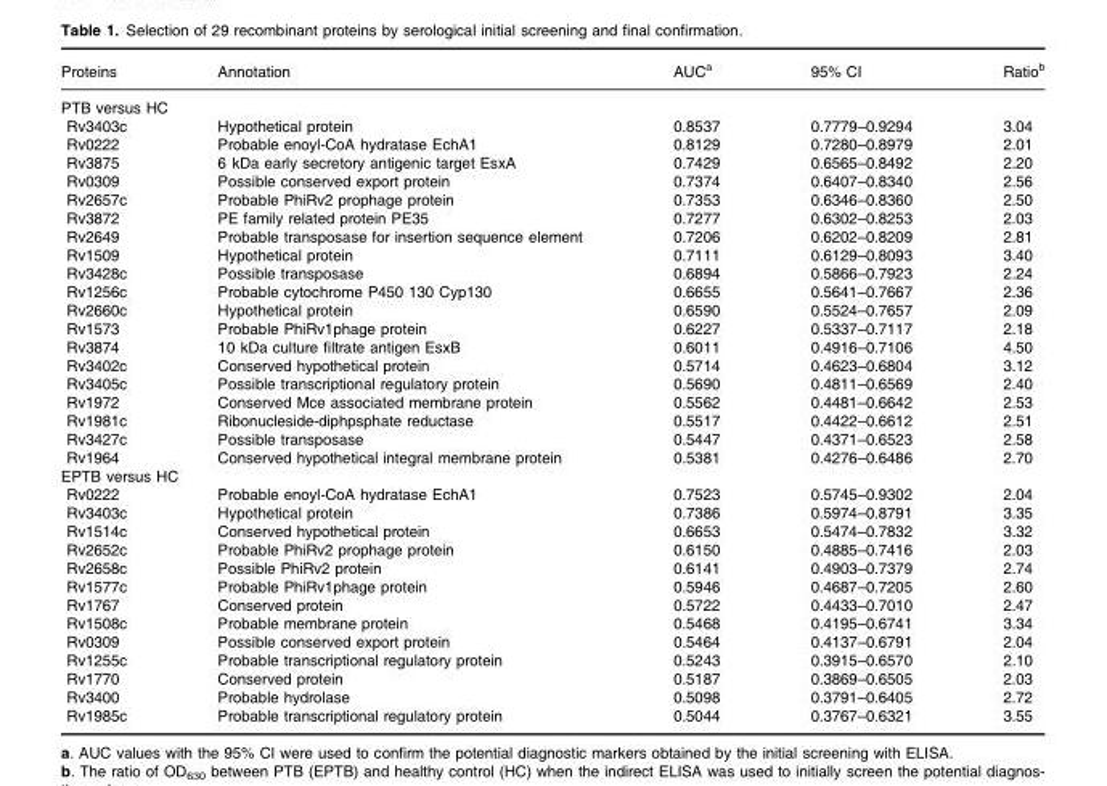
<table><thead><tr><td>Proteins</td><td>Annotation</td><td>AUC<sup>a</sup></td><td>95% CI</td><td>Ratio<sup>b</sup></td></tr></thead><tbody><tr><td colspan="5">PTB versus HC</td></tr><tr><td>Rv3403c</td><td>Hypothetical protein</td><td>0.8537</td><td>0.7779–0.9294</td><td>3.04</td></tr><tr><td>Rv0222</td><td>Probable enoyl-CoA hydratase EchA1</td><td>0.8129</td><td>0.7280–0.8979</td><td>2.01</td></tr><tr><td>Rv3875</td><td>6 kDa early secretory antigenic target EsxA</td><td>0.7429</td><td>0.6565–0.8492</td><td>2.20</td></tr><tr><td>Rv0309</td><td>Possible conserved export protein</td><td>0.7374</td><td>0.6407–0.8340</td><td>2.56</td></tr><tr><td>Rv2657c</td><td>Probable PhiRv2 prophage protein</td><td>0.7353</td><td>0.6346–0.8360</td><td>2.50</td></tr><tr><td>Rv3872</td><td>PE family related protein PE35</td><td>0.7277</td><td>0.6302–0.8253</td><td>2.03</td></tr><tr><td>Rv2649</td><td>Probable transposase for insertion sequence element</td><td>0.7206</td><td>0.6202–0.8209</td><td>2.81</td></tr><tr><td>Rv1509</td><td>Hypothetical protein</td><td>0.7111</td><td>0.6129–0.8093</td><td>3.40</td></tr><tr><td>Rv3428c</td><td>Possible transposase</td><td>0.6894</td><td>0.5866–0.7923</td><td>2.24</td></tr><tr><td>Rv1256c</td><td>Probable cytochrome P450 130 Cyp130</td><td>0.6655</td><td>0.5641–0.7667</td><td>2.36</td></tr><tr><td>Rv2660c</td><td>Hypothetical protein</td><td>0.6590</td><td>0.5524–0.7657</td><td>2.09</td></tr><tr><td>Rv1573</td><td>Probable PhiRv1phage protein</td><td>0.6227</td><td>0.5337–0.7117</td><td>2.18</td></tr><tr><td>Rv3874</td><td>10 kDa culture filtrate antigen EsxB</td><td>0.6011</td><td>0.4916–0.7106</td><td>4.50</td></tr><tr><td>Rv3402c</td><td>Conserved hypothetical protein</td><td>0.5714</td><td>0.4623–0.6804</td><td>3.12</td></tr><tr><td>Rv3405c</td><td>Possible transcriptional regulatory protein</td><td>0.5690</td><td>0.4811–0.6569</td><td>2.40</td></tr><tr><td>Rv1972</td><td>Conserved Mce associated membrane protein</td><td>0.5562</td><td>0.4481–0.6642</td><td>2.53</td></tr><tr><td>Rv1981c</td><td>Ribonucleside-diphpsphate reductase</td><td>0.5517</td><td>0.4422–0.6612</td><td>2.51</td></tr><tr><td>Rv3427c</td><td>Possible transposase</td><td>0.5447</td><td>0.4371–0.6523</td><td>2.58</td></tr><tr><td>Rv1964</td><td>Conserved hypothetical integral membrane protein</td><td>0.5381</td><td>0.4276–0.6486</td><td>2.70</td></tr><tr><td colspan="5">EPTB versus HC</td></tr><tr><td>Rv0222</td><td>Probable enoyl-CoA hydratase EchA1</td><td>0.7523</td><td>0.5745–0.9302</td><td>2.04</td></tr><tr><td>Rv3403c</td><td>Hypothetical protein</td><td>0.7386</td><td>0.5974–0.8791</td><td>3.35</td></tr><tr><td>Rv1514c</td><td>Conserved hypothetical protein</td><td>0.6653</td><td>0.5474–0.7832</td><td>3.32</td></tr><tr><td>Rv2652c</td><td>Probable PhiRv2 prophage protein</td><td>0.6150</td><td>0.4885–0.7416</td><td>2.03</td></tr><tr><td>Rv2658c</td><td>Possible PhiRv2 protein</td><td>0.6141</td><td>0.4903–0.7379</td><td>2.74</td></tr><tr><td>Rv1577c</td><td>Probable PhiRv1phage protein</td><td>0.5946</td><td>0.4687–0.7205</td><td>2.60</td></tr><tr><td>Rv1767</td><td>Conserved protein</td><td>0.5722</td><td>0.4433–0.7010</td><td>2.47</td></tr><tr><td>Rv1508c</td><td>Probable membrane protein</td><td>0.5468</td><td>0.4195–0.6741</td><td>3.34</td></tr><tr><td>Rv0309</td><td>Possible conserved export protein</td><td>0.5464</td><td>0.4137–0.6791</td><td>2.04</td></tr><tr><td>Rv1255c</td><td>Probable transcriptional regulatory protein</td><td>0.5243</td><td>0.3915–0.6570</td><td>2.10</td></tr><tr><td>Rv1770</td><td>Conserved protein</td><td>0.5187</td><td>0.3869–0.6505</td><td>2.03</td></tr><tr><td>Rv3400</td><td>Probable hydrolase</td><td>0.5098</td><td>0.3791–0.6405</td><td>2.72</td></tr><tr><td>Rv1985c</td><td>Probable transcriptional regulatory protein</td><td>0.5044</td><td>0.3767–0.6321</td><td>3.55</td></tr></tbody></table>